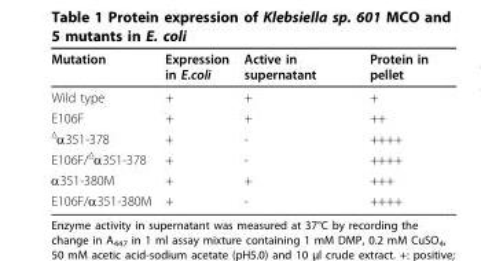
<table><thead><tr><td>Mutation</td><td>Expression in E.coli</td><td>Active in supernatant</td><td>Protein in pellet</td></tr></thead><tbody><tr><td>Wild type</td><td>+</td><td>+</td><td>+</td></tr><tr><td>E106F</td><td>+</td><td>+</td><td>++</td></tr><tr><td><sup>Δ</sup>α351-378</td><td>+</td><td>-</td><td>++++</td></tr><tr><td>E106F/<sup>Δ</sup>α351-378</td><td>+</td><td>-</td><td>++++</td></tr><tr><td>α351-380M</td><td>+</td><td>+</td><td>+++</td></tr><tr><td>E106F/α351-380M</td><td>+</td><td>-</td><td>++++</td></tr></tbody></table>